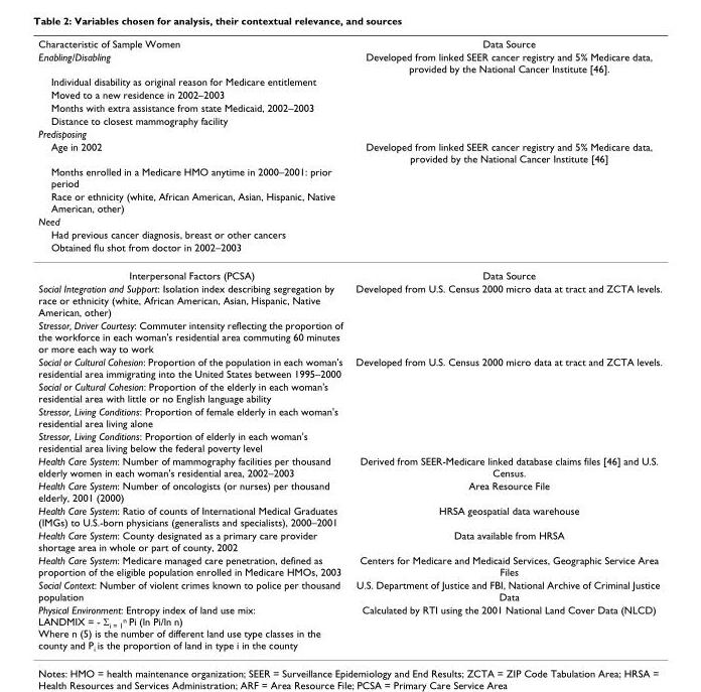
<table><thead><tr><td rowspan="13">Characteristic of Sample Women Enabling/Disabling Individual disability as original reason for Medicare entitlement Moved to a new residence in 2002–2003 Months with extra assistance from state Medicaid, 2002–2003 Distance to closest mammography facility Predisposing Age in 2002 Months enrolled in a Medicare HMO anytime in 2000–2001: prior period Race or ethnicity (white, African American, Asian, Hispanic, Native American, other) Need Had previous cancer diagnosis, breast or other cancers Obtained flu shot from doctor in 2002–2003</td><td rowspan="13">Data Source Developed from linked SEER cancer registry and 5% Medicare data, provided by the National Cancer Institute [46]. Developed from linked SEER cancer registry and 5% Medicare data, provided by the National Cancer Institute [46]</td></tr><tr></tr><tr></tr><tr></tr><tr></tr><tr></tr><tr></tr><tr></tr><tr></tr><tr></tr><tr></tr><tr></tr><tr></tr></thead><tbody><tr><td>Interpersonal Factors (PCSA)</td><td>Data Source</td></tr><tr><td>Social Integration and Support: Isolation index describing segregation by race or ethnicity (white, African American, Asian, Hispanic, Native American, other)</td><td>Developed from U.S. Census 2000 micro data at tract and ZCTA levels.</td></tr><tr><td colspan="2">Stressor, Driver Courtesy: Commuter intensity reflecting the proportion of the workforce in each woman&#x27;s residential area commuting 60 minutes or more each way to work</td></tr><tr><td>Social or Cultural Cohesion: Proportion of the population in each woman&#x27;s residential area immigrating into the United States between 1995–2000</td><td>Developed from U.S. Census 2000 micro data at tract and ZCTA levels.</td></tr><tr><td colspan="2">Social or Cultural Cohesion: Proportion of the elderly in each woman&#x27;s residential area with little or no English language ability</td></tr><tr><td colspan="2">Stressor, Living Conditions: Proportion of female elderly in each woman&#x27;s residential area living alone</td></tr><tr><td colspan="2">Stressor, Living Conditions: Proportion of elderly in each woman&#x27;s residential area living below the federal poverty level</td></tr><tr><td>Health Care System: Number of mammography facilities per thousand elderly women in each woman&#x27;s residential area, 2002–2003</td><td>Derived from SEER-Medicare linked database claims files [46] and U.S. Census.</td></tr><tr><td>Health Care System: Number of oncologists (or nurses) per thousand elderly, 2001 (2000)</td><td>Area Resource File</td></tr><tr><td>Health Care System: Ratio of counts of International Medical Graduates (IMGs) to U.S.-born physicians (generalists and specialists), 2000–2001</td><td>HRSA geospatial data warehouse</td></tr><tr><td>Health Care System: County designated as a primary care provider shortage area in whole or part of county, 2002</td><td>Data available from HRSA</td></tr><tr><td>Health Care System: Medicare managed care penetration, defined as proportion of the eligible population enrolled in Medicare HMOs, 2003</td><td>Centers for Medicare and Medicaid Services, Geographic Service Area Files</td></tr><tr><td>Social Context: Number of violent crimes known to police per thousand population</td><td>U.S. Department of Justice and FBI, National Archive of Criminal Justice Data</td></tr><tr><td>Physical Environment: Entropy index of land use mix: LANDMIX = - Σ<sub>i = 1</sub><sup>n</sup> Pi (ln Pi/ln n) Where n (5) is the number of different land use type classes in the county and P<sub>i</sub> is the proportion of land in type i in the county</td><td>Calculated by RTI using the 2001 National Land Cover Data (NLCD)</td></tr></tbody></table>